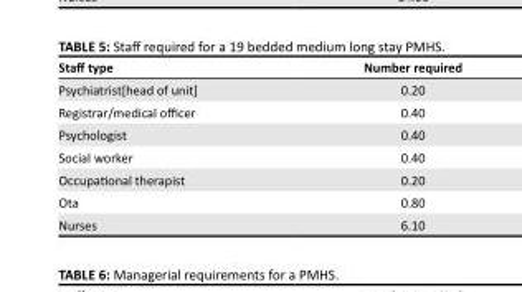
<table><thead><tr><td>Staff type</td><td>Number required</td></tr></thead><tbody><tr><td>Psychiatrist[head of unit]</td><td>0.20</td></tr><tr><td>Registrar/medical officer</td><td>0.40</td></tr><tr><td>Psychologist</td><td>0.40</td></tr><tr><td>Social worker</td><td>0.40</td></tr><tr><td>Occupational therapist</td><td>0.20</td></tr><tr><td>Ota</td><td>0.80</td></tr><tr><td>Nurses</td><td>6.10</td></tr></tbody></table>